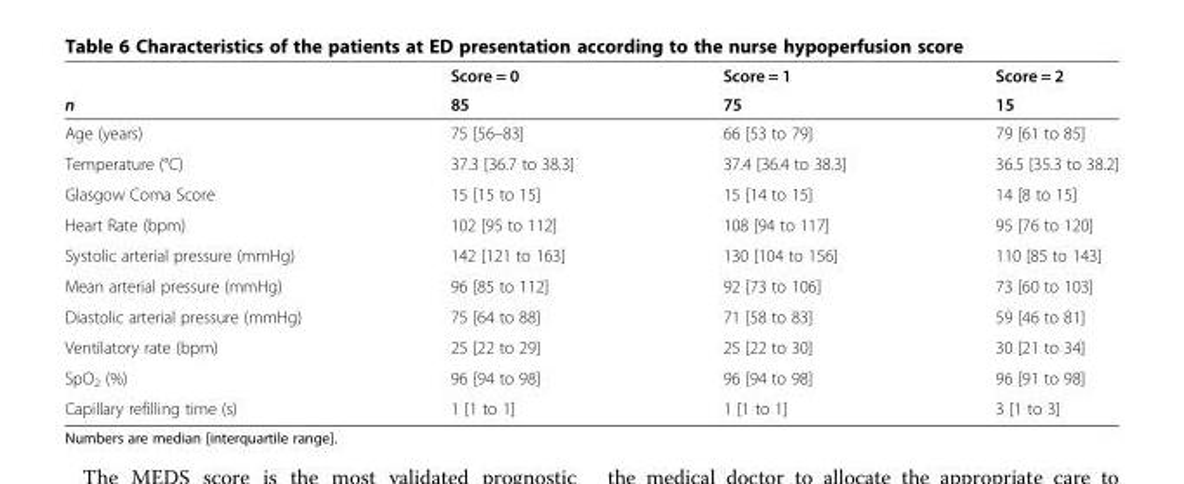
<table><thead><tr><td rowspan="2">n</td><td rowspan="2">Score = 0 85</td><td rowspan="2">Score = 1 75</td><td rowspan="2">Score = 2 15</td></tr><tr></tr></thead><tbody><tr><td>Age (years)</td><td>75 [56–83]</td><td>66 [53 to 79]</td><td>79 [61 to 85]</td></tr><tr><td>Temperature (°C)</td><td>37.3 [36.7 to 38.3]</td><td>37.4 [36.4 to 38.3]</td><td>36.5 [35.3 to 38.2]</td></tr><tr><td>Glasgow Coma Score</td><td>15 [15 to 15]</td><td>15 [14 to 15]</td><td>14 [8 to 15]</td></tr><tr><td>Heart Rate (bpm)</td><td>102 [95 to 112]</td><td>108 [94 to 117]</td><td>95 [76 to 120]</td></tr><tr><td>Systolic arterial pressure (mmHg)</td><td>142 [121 to 163]</td><td>130 [104 to 156]</td><td>110 [85 to 143]</td></tr><tr><td>Mean arterial pressure (mmHg)</td><td>96 [85 to 112]</td><td>92 [73 to 106]</td><td>73 [60 to 103]</td></tr><tr><td>Diastolic arterial pressure (mmHg)</td><td>75 [64 to 88]</td><td>71 [58 to 83]</td><td>59 [46 to 81]</td></tr><tr><td>Ventilatory rate (bpm)</td><td>25 [22 to 29]</td><td>25 [22 to 30]</td><td>30 [21 to 34]</td></tr><tr><td>SpO<sub>2</sub> (%)</td><td>96 [94 to 98]</td><td>96 [94 to 98]</td><td>96 [91 to 98]</td></tr><tr><td>Capillary refilling time (s)</td><td>1 [1 to 1]</td><td>1 [1 to 1]</td><td>3 [1 to 3]</td></tr></tbody></table>